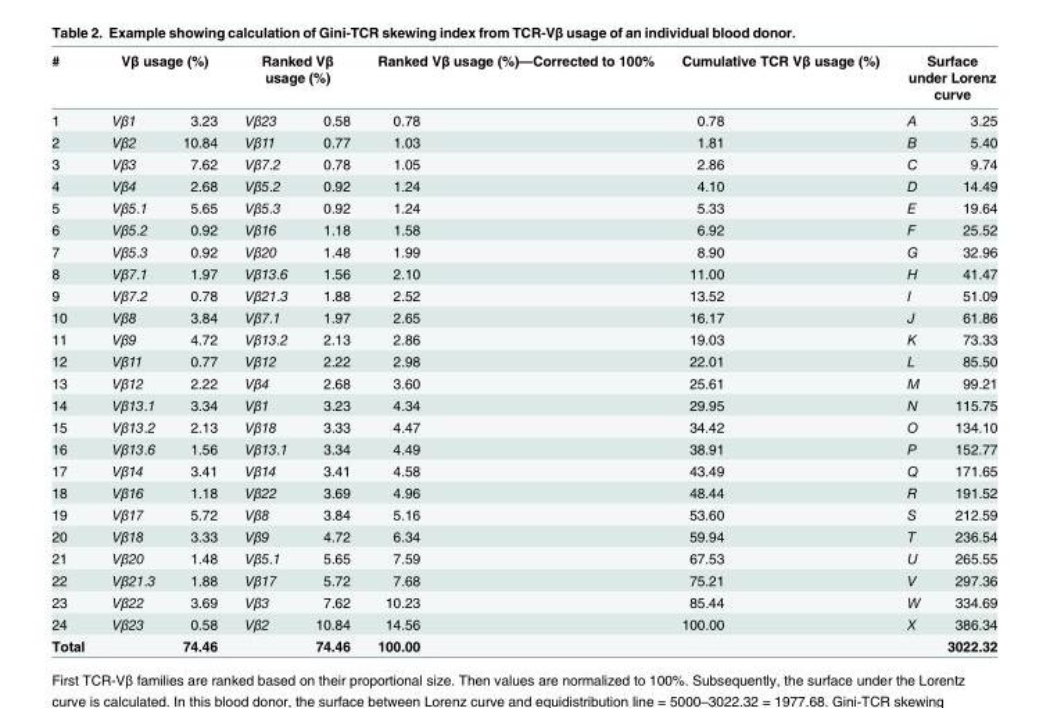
<table><thead><tr><td rowspan="2"># 1</td><td colspan="2">Vβ usage (%)</td><td colspan="2">Ranked Vβ usage (%)</td><td rowspan="2">Ranked Vβ usage (%)—Corrected to 100% 0.78</td><td rowspan="2">Cumulative TCR Vβ usage (%) 0.78</td><td colspan="2">Surface under Lorenz curve</td></tr><tr><td>Vβ1</td><td>3.23</td><td>Vβ23</td><td>0.58</td><td>A</td><td>3.25</td></tr></thead><tbody><tr><td>2</td><td>Vβ2</td><td>10.84</td><td>Vβ11</td><td>0.77</td><td>1.03</td><td>1.81</td><td>B</td><td>5.40</td></tr><tr><td>3</td><td>Vβ3</td><td>7.62</td><td>Vβ7.2</td><td>0.78</td><td>1.05</td><td>2.86</td><td>C</td><td>9.74</td></tr><tr><td>4</td><td>Vβ4</td><td>2.68</td><td>Vβ5.2</td><td>0.92</td><td>1.24</td><td>4.10</td><td>D</td><td>14.49</td></tr><tr><td>5</td><td>Vβ5.1</td><td>5.65</td><td>Vβ5.3</td><td>0.92</td><td>1.24</td><td>5.33</td><td>E</td><td>19.64</td></tr><tr><td>6</td><td>Vβ5.2</td><td>0.92</td><td>Vβ16</td><td>1.18</td><td>1.58</td><td>6.92</td><td>F</td><td>25.52</td></tr><tr><td>7</td><td>Vβ5.3</td><td>0.92</td><td>Vβ20</td><td>1.48</td><td>1.99</td><td>8.90</td><td>G</td><td>32.96</td></tr><tr><td>8</td><td>Vβ7.1</td><td>1.97</td><td>Vβ13.6</td><td>1.56</td><td>2.10</td><td>11.00</td><td>H</td><td>41.47</td></tr><tr><td>9</td><td>Vβ7.2</td><td>0.78</td><td>Vβ21.3</td><td>1.88</td><td>2.52</td><td>13.52</td><td>I</td><td>51.09</td></tr><tr><td>10</td><td>Vβ8</td><td>3.84</td><td>Vβ7.1</td><td>1.97</td><td>2.65</td><td>16.17</td><td>J</td><td>61.86</td></tr><tr><td>11</td><td>Vβ9</td><td>4.72</td><td>Vβ13.2</td><td>2.13</td><td>2.86</td><td>19.03</td><td>K</td><td>73.33</td></tr><tr><td>12</td><td>Vβ11</td><td>0.77</td><td>Vβ12</td><td>2.22</td><td>2.98</td><td>22.01</td><td>L</td><td>85.50</td></tr><tr><td>13</td><td>Vβ12</td><td>2.22</td><td>Vβ4</td><td>2.68</td><td>3.60</td><td>25.61</td><td>M</td><td>99.21</td></tr><tr><td>14</td><td>Vβ13.1</td><td>3.34</td><td>Vβ1</td><td>3.23</td><td>4.34</td><td>29.95</td><td>N</td><td>115.75</td></tr><tr><td>15</td><td>Vβ13.2</td><td>2.13</td><td>Vβ18</td><td>3.33</td><td>4.47</td><td>34.42</td><td>O</td><td>134.10</td></tr><tr><td>16</td><td>Vβ13.6</td><td>1.56</td><td>Vβ13.1</td><td>3.34</td><td>4.49</td><td>38.91</td><td>P</td><td>152.77</td></tr><tr><td>17</td><td>Vβ14</td><td>3.41</td><td>Vβ14</td><td>3.41</td><td>4.58</td><td>43.49</td><td>Q</td><td>171.65</td></tr><tr><td>18</td><td>Vβ16</td><td>1.18</td><td>Vβ22</td><td>3.69</td><td>4.96</td><td>48.44</td><td>R</td><td>191.52</td></tr><tr><td>19</td><td>Vβ17</td><td>5.72</td><td>Vβ8</td><td>3.84</td><td>5.16</td><td>53.60</td><td>S</td><td>212.59</td></tr><tr><td>20</td><td>Vβ18</td><td>3.33</td><td>Vβ9</td><td>4.72</td><td>6.34</td><td>59.94</td><td>T</td><td>236.54</td></tr><tr><td>21</td><td>Vβ20</td><td>1.48</td><td>Vβ5.1</td><td>5.65</td><td>7.59</td><td>67.53</td><td>U</td><td>265.55</td></tr><tr><td>22</td><td>Vβ21.3</td><td>1.88</td><td>Vβ17</td><td>5.72</td><td>7.68</td><td>75.21</td><td>V</td><td>297.36</td></tr><tr><td>23</td><td>Vβ22</td><td>3.69</td><td>Vβ3</td><td>7.62</td><td>10.23</td><td>85.44</td><td>W</td><td>334.69</td></tr><tr><td>24</td><td>Vβ23</td><td>0.58</td><td>Vβ2</td><td>10.84</td><td>14.56</td><td>100.00</td><td>X</td><td>386.34</td></tr><tr><td>Total</td><td></td><td>74.46</td><td></td><td>74.46</td><td>100.00</td><td></td><td></td><td>3022.32</td></tr></tbody></table>